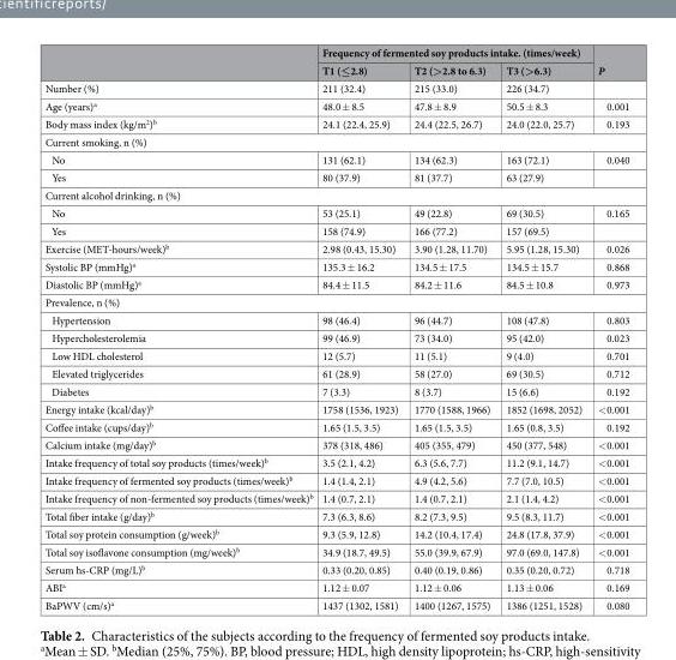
<table><thead><tr><td rowspan="2"></td><td colspan="3">Frequency of fermented soy products intake. (times/week)</td><td rowspan="2">P</td></tr><tr><td>T1 (≤2.8)</td><td>T2 (&gt;2.8 to 6.3)</td><td>T3 (&gt;6.3)</td></tr></thead><tbody><tr><td>Number (%)</td><td>211 (32.4)</td><td>215 (33.0)</td><td>226 (34.7)</td><td></td></tr><tr><td>Age (years)<sup>a</sup></td><td>48.0 ± 8.5</td><td>47.8 ± 8.9</td><td>50.5 ± 8.3</td><td>0.001</td></tr><tr><td>Body mass index (kg/m<sup>2</sup>)<sup>b</sup></td><td>24.1 (22.4, 25.9)</td><td>24.4 (22.5, 26.7)</td><td>24.0 (22.0, 25.7)</td><td>0.193</td></tr><tr><td colspan="5">Current smoking, n (%)</td></tr><tr><td>No</td><td>131 (62.1)</td><td>134 (62.3)</td><td>163 (72.1)</td><td>0.040</td></tr><tr><td>Yes</td><td>80 (37.9)</td><td>81 (37.7)</td><td>63 (27.9)</td><td></td></tr><tr><td colspan="5">Current alcohol drinking, n (%)</td></tr><tr><td>No</td><td>53 (25.1)</td><td>49 (22.8)</td><td>69 (30.5)</td><td>0.165</td></tr><tr><td>Yes</td><td>158 (74.9)</td><td>166 (77.2)</td><td>157 (69.5)</td><td></td></tr><tr><td>Exercise (MET-hours/week)<sup>b</sup></td><td>2.98 (0.43, 15.30)</td><td>3.90 (1.28, 11.70)</td><td>5.95 (1.28, 15.30)</td><td>0.026</td></tr><tr><td>Systolic BP (mmHg)<sup>a</sup></td><td>135.3 ± 16.2</td><td>134.5 ± 17.5</td><td>134.5 ± 15.7</td><td>0.868</td></tr><tr><td>Diastolic BP (mmHg)<sup>a</sup></td><td>84.4 ± 11.5</td><td>84.2 ± 11.6</td><td>84.5 ± 10.8</td><td>0.973</td></tr><tr><td colspan="5">Prevalence, n (%)</td></tr><tr><td>Hypertension</td><td>98 (46.4)</td><td>96 (44.7)</td><td>108 (47.8)</td><td>0.803</td></tr><tr><td>Hypercholesterolemia</td><td>99 (46.9)</td><td>73 (34.0)</td><td>95 (42.0)</td><td>0.023</td></tr><tr><td>Low HDL cholesterol</td><td>12 (5.7)</td><td>11 (5.1)</td><td>9 (4.0)</td><td>0.701</td></tr><tr><td>Elevated triglycerides</td><td>61 (28.9)</td><td>58 (27.0)</td><td>69 (30.5)</td><td>0.712</td></tr><tr><td>Diabetes</td><td>7 (3.3)</td><td>8 (3.7)</td><td>15 (6.6)</td><td>0.192</td></tr><tr><td>Energy intake (kcal/day)<sup>b</sup></td><td>1758 (1536, 1923)</td><td>1770 (1588, 1966)</td><td>1852 (1698, 2052)</td><td>&lt;0.001</td></tr><tr><td>Coffee intake (cups/day)<sup>b</sup></td><td>1.65 (1.5, 3.5)</td><td>1.65 (1.5, 3.5)</td><td>1.65 (0.8, 3.5)</td><td>0.192</td></tr><tr><td>Calcium intake (mg/day)<sup>b</sup></td><td>378 (318, 486)</td><td>405 (355, 479)</td><td>450 (377, 548)</td><td>&lt;0.001</td></tr><tr><td>Intake frequency of total soy products (times/week)<sup>b</sup></td><td>3.5 (2.1, 4.2)</td><td>6.3 (5.6, 7.7)</td><td>11.2 (9.1, 14.7)</td><td>&lt;0.001</td></tr><tr><td>Intake frequency of fermented soy products (times/week)<sup>b</sup></td><td>1.4 (1.4, 2.1)</td><td>4.9 (4.2, 5.6)</td><td>7.7 (7.0, 10.5)</td><td>&lt;0.001</td></tr><tr><td>Intake frequency of non-fermented soy products (times/week)<sup>b</sup></td><td>1.4 (0.7, 2.1)</td><td>1.4 (0.7, 2.1)</td><td>2.1 (1.4, 4.2)</td><td>&lt;0.001</td></tr><tr><td>Total fiber intake (g/day)<sup>b</sup></td><td>7.3 (6.3, 8.6)</td><td>8.2 (7.3, 9.5)</td><td>9.5 (8.3, 11.7)</td><td>&lt;0.001</td></tr><tr><td>Total soy protein consumption (g/week)<sup>b</sup></td><td>9.3 (5.9, 12.8)</td><td>14.2 (10.4, 17.4)</td><td>24.8 (17.8, 37.9)</td><td>&lt;0.001</td></tr><tr><td>Total soy isoflavone consumption (mg/week)<sup>b</sup></td><td>34.9 (18.7, 49.5)</td><td>55.0 (39.9, 67.9)</td><td>97.0 (69.0, 147.8)</td><td>&lt;0.001</td></tr><tr><td>Serum hs-CRP (mg/L)<sup>b</sup></td><td>0.33 (0.20, 0.85)</td><td>0.40 (0.19, 0.86)</td><td>0.35 (0.20, 0.72)</td><td>0.718</td></tr><tr><td>ABI<sup>a</sup></td><td>1.12 ± 0.07</td><td>1.12 ± 0.06</td><td>1.13 ± 0.06</td><td>0.169</td></tr><tr><td>BaPWV (cm/s)<sup>a</sup></td><td>1437 (1302, 1581)</td><td>1400 (1267, 1575)</td><td>1386 (1251, 1528)</td><td>0.080</td></tr></tbody></table>